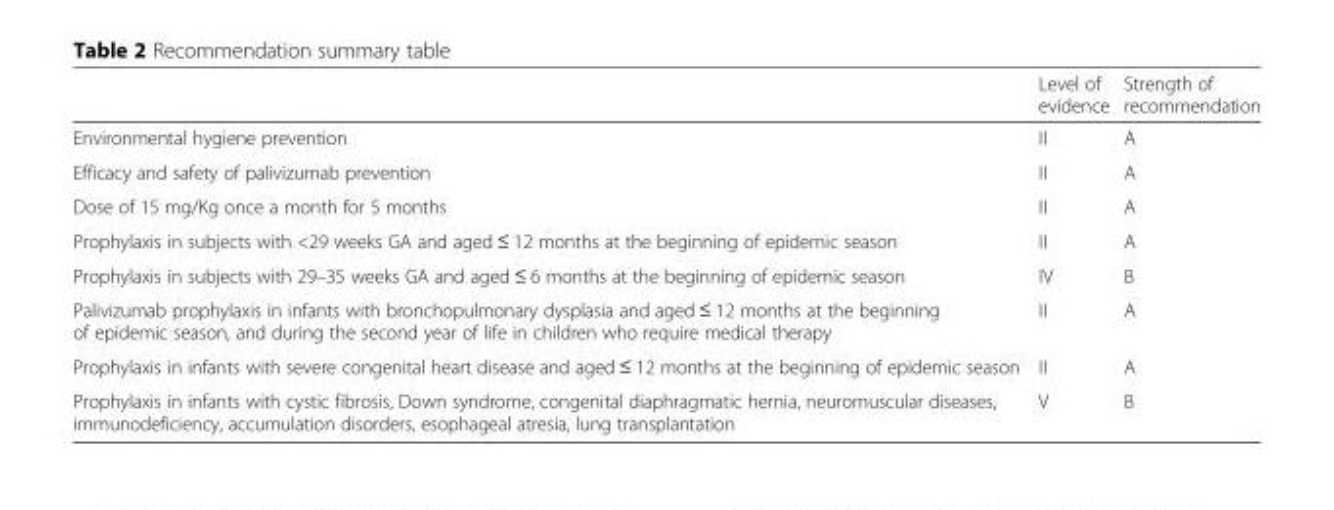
<table><thead><tr><td></td><td>Level of evidence</td><td>Strength of recommendation</td></tr></thead><tbody><tr><td>Environmental hygiene prevention</td><td>II</td><td>A</td></tr><tr><td>Efficacy and safety of palivizumab prevention</td><td>II</td><td>A</td></tr><tr><td>Dose of 15 mg/Kg once a month for 5 months</td><td>II</td><td>A</td></tr><tr><td>Prophylaxis in subjects with &lt;29 weeks GA and aged ≤ 12 months at the beginning of epidemic season</td><td>II</td><td>A</td></tr><tr><td>Prophylaxis in subjects with 29–35 weeks GA and aged ≤ 6 months at the beginning of epidemic season</td><td>IV</td><td>B</td></tr><tr><td>Palivizumab prophylaxis in infants with bronchopulmonary dysplasia and aged ≤ 12 months at the beginning of epidemic season, and during the second year of life in children who require medical therapy</td><td>II</td><td>A</td></tr><tr><td>Prophylaxis in infants with severe congenital heart disease and aged ≤ 12 months at the beginning of epidemic season</td><td>II</td><td>A</td></tr><tr><td>Prophylaxis in infants with cystic fibrosis, Down syndrome, congenital diaphragmatic hernia, neuromuscular diseases, immunodeficiency, accumulation disorders, esophageal atresia, lung transplantation</td><td>V</td><td>B</td></tr></tbody></table>